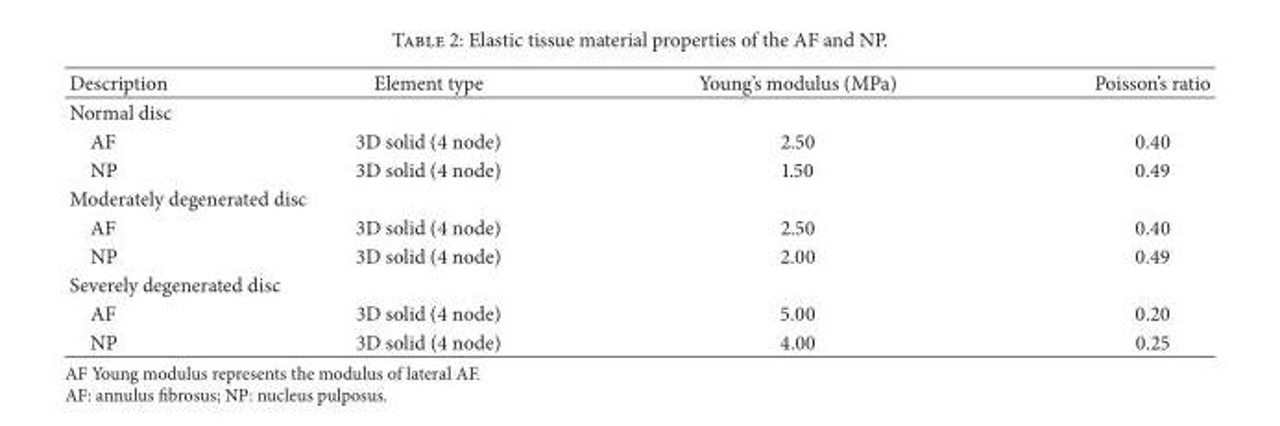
<table><thead><tr><td>Description</td><td>Element type</td><td>Young’s modulus (MPa)</td><td>Poisson’s ratio</td></tr></thead><tbody><tr><td colspan="4">Normal disc</td></tr><tr><td>AF</td><td>3D solid (4 node)</td><td>2.50</td><td>0.40</td></tr><tr><td>NP</td><td>3D solid (4 node)</td><td>1.50</td><td>0.49</td></tr><tr><td colspan="4">Moderately degenerated disc</td></tr><tr><td>AF</td><td>3D solid (4 node)</td><td>2.50</td><td>0.40</td></tr><tr><td>NP</td><td>3D solid (4 node)</td><td>2.00</td><td>0.49</td></tr><tr><td colspan="4">Severely degenerated disc</td></tr><tr><td>AF</td><td>3D solid (4 node)</td><td>5.00</td><td>0.20</td></tr><tr><td>NP</td><td>3D solid (4 node)</td><td>4.00</td><td>0.25</td></tr></tbody></table>